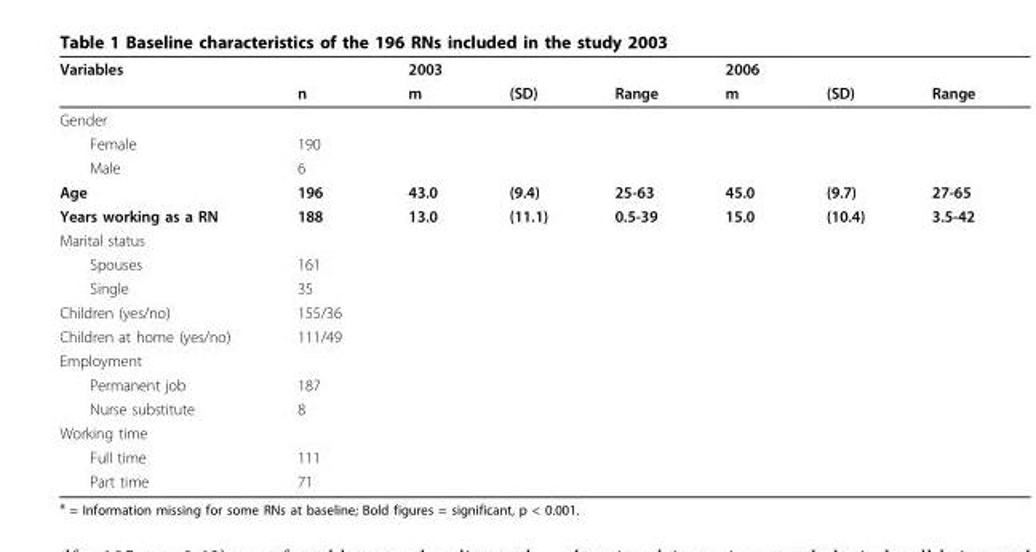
<table><thead><tr><td rowspan="2">Variables</td><td rowspan="2">n</td><td rowspan="2">2003 m</td><td rowspan="2">(SD)</td><td rowspan="2">Range</td><td rowspan="2">2006 m</td><td rowspan="2">(SD)</td><td rowspan="2">Range</td></tr><tr></tr></thead><tbody><tr><td colspan="8">Gender</td></tr><tr><td>Female</td><td>190</td><td></td><td></td><td></td><td></td><td></td><td></td></tr><tr><td>Male</td><td>6</td><td></td><td></td><td></td><td></td><td></td><td></td></tr><tr><td>Age</td><td>196</td><td>43.0</td><td>(9.4)</td><td>25-63</td><td>45.0</td><td>(9.7)</td><td>27-65</td></tr><tr><td>Years working as a RN</td><td>188</td><td>13.0</td><td>(11.1)</td><td>0.5-39</td><td>15.0</td><td>(10.4)</td><td>3.5-42</td></tr><tr><td colspan="8">Marital status</td></tr><tr><td>Spouses</td><td>161</td><td></td><td></td><td></td><td></td><td></td><td></td></tr><tr><td>Single</td><td>35</td><td></td><td></td><td></td><td></td><td></td><td></td></tr><tr><td>Children (yes/no)</td><td>155/36</td><td></td><td></td><td></td><td></td><td></td><td></td></tr><tr><td>Children at home (yes/no)</td><td>111/49</td><td></td><td></td><td></td><td></td><td></td><td></td></tr><tr><td colspan="8">Employment</td></tr><tr><td>Permanent job</td><td>187</td><td></td><td></td><td></td><td></td><td></td><td></td></tr><tr><td>Nurse substitute</td><td>8</td><td></td><td></td><td></td><td></td><td></td><td></td></tr><tr><td colspan="8">Working time</td></tr><tr><td>Full time</td><td>111</td><td></td><td></td><td></td><td></td><td></td><td></td></tr><tr><td>Part time</td><td>71</td><td></td><td></td><td></td><td></td><td></td><td></td></tr></tbody></table>